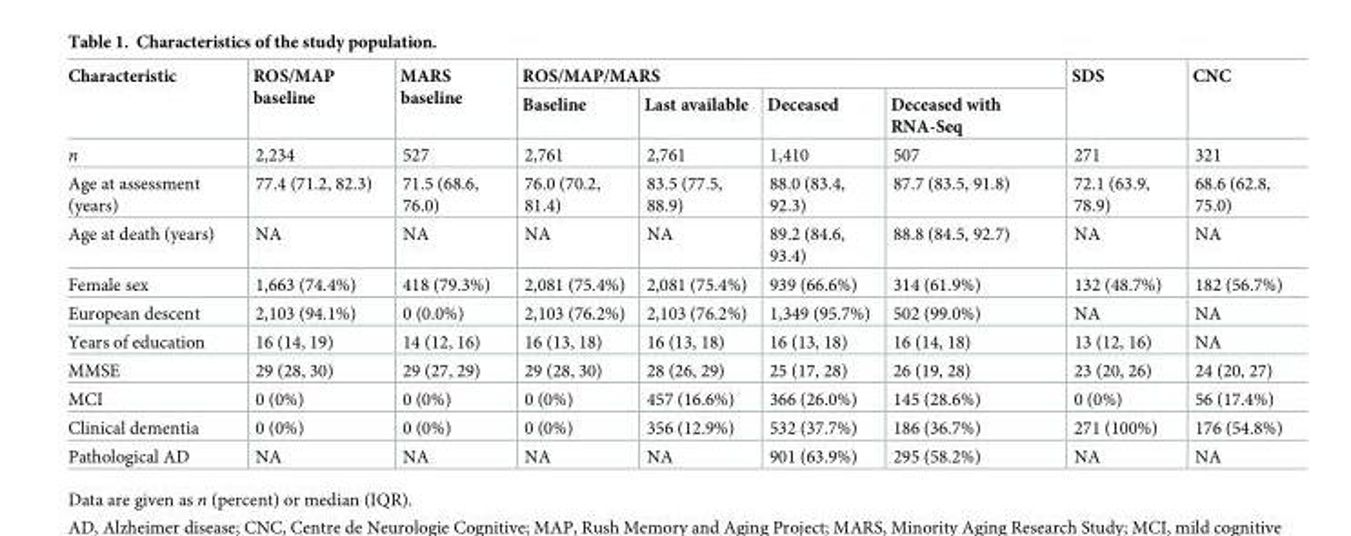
<table><thead><tr><td rowspan="2">Characteristic</td><td rowspan="2">ROS/MAP baseline</td><td rowspan="2">MARS baseline</td><td colspan="4">ROS/MAP/MARS</td><td rowspan="2">SDS</td><td rowspan="2">CNC</td></tr><tr><td>Baseline</td><td>Last available</td><td>Deceased</td><td>Deceased with RNA-Seq</td></tr></thead><tbody><tr><td>n</td><td>2,234</td><td>527</td><td>2,761</td><td>2,761</td><td>1,410</td><td>507</td><td>271</td><td>321</td></tr><tr><td>Age at assessment (years)</td><td>77.4 (71.2, 82.3)</td><td>71.5 (68.6, 76.0)</td><td>76.0 (70.2, 81.4)</td><td>83.5 (77.5, 88.9)</td><td>88.0 (83.4, 92.3)</td><td>87.7 (83.5, 91.8)</td><td>72.1 (63.9, 78.9)</td><td>68.6 (62.8, 75.0)</td></tr><tr><td>Age at death (years)</td><td>NA</td><td>NA</td><td>NA</td><td>NA</td><td>89.2 (84.6, 93.4)</td><td>88.8 (84.5, 92.7)</td><td>NA</td><td>NA</td></tr><tr><td>Female sex</td><td>1,663 (74.4%)</td><td>418 (79.3%)</td><td>2,081 (75.4%)</td><td>2,081 (75.4%)</td><td>939 (66.6%)</td><td>314 (61.9%)</td><td>132 (48.7%)</td><td>182 (56.7%)</td></tr><tr><td>European descent</td><td>2,103 (94.1%)</td><td>0 (0.0%)</td><td>2,103 (76.2%)</td><td>2,103 (76.2%)</td><td>1,349 (95.7%)</td><td>502 (99.0%)</td><td>NA</td><td>NA</td></tr><tr><td>Years of education</td><td>16 (14, 19)</td><td>14 (12, 16)</td><td>16 (13, 18)</td><td>16 (13, 18)</td><td>16 (13, 18)</td><td>16 (14, 18)</td><td>13 (12, 16)</td><td>NA</td></tr><tr><td>MMSE</td><td>29 (28, 30)</td><td>29 (27, 29)</td><td>29 (28, 30)</td><td>28 (26, 29)</td><td>25 (17, 28)</td><td>26 (19, 28)</td><td>23 (20, 26)</td><td>24 (20, 27)</td></tr><tr><td>MCI</td><td>0 (0%)</td><td>0 (0%)</td><td>0 (0%)</td><td>457 (16.6%)</td><td>366 (26.0%)</td><td>145 (28.6%)</td><td>0 (0%)</td><td>56 (17.4%)</td></tr><tr><td>Clinical dementia</td><td>0 (0%)</td><td>0 (0%)</td><td>0 (0%)</td><td>356 (12.9%)</td><td>532 (37.7%)</td><td>186 (36.7%)</td><td>271 (100%)</td><td>176 (54.8%)</td></tr><tr><td>Pathological AD</td><td>NA</td><td>NA</td><td>NA</td><td>NA</td><td>901 (63.9%)</td><td>295 (58.2%)</td><td>NA</td><td>NA</td></tr></tbody></table>